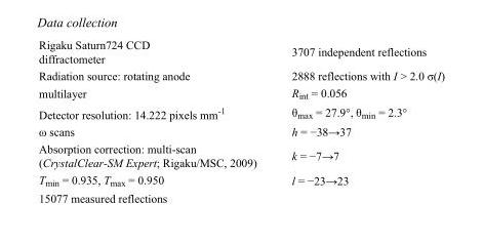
<table><tbody><tr><td>Rigaku Saturn724 CCD diffractometer</td><td>3707 independent reflections</td></tr><tr><td>Radiation source: rotating anode</td><td>2888 reflections with I &gt; 2.0 σ(I)</td></tr><tr><td>multilayer</td><td>R<sub>int</sub> = 0.056</td></tr><tr><td>Detector resolution: 14.222 pixels mm<sup>-1</sup></td><td>θ<sub>max</sub> = 27.9°, θ<sub>min</sub> = 2.3°</td></tr><tr><td>ω scans</td><td>h = −38→37</td></tr><tr><td>Absorption correction: multi-scan (CrystalClear-SM Expert; Rigaku/MSC, 2009)</td><td>k = −7→7</td></tr><tr><td>T<sub>min</sub> = 0.935, T<sub>max</sub> = 0.950</td><td>l = −23→23</td></tr><tr><td>15077 measured reflections</td><td></td></tr></tbody></table>